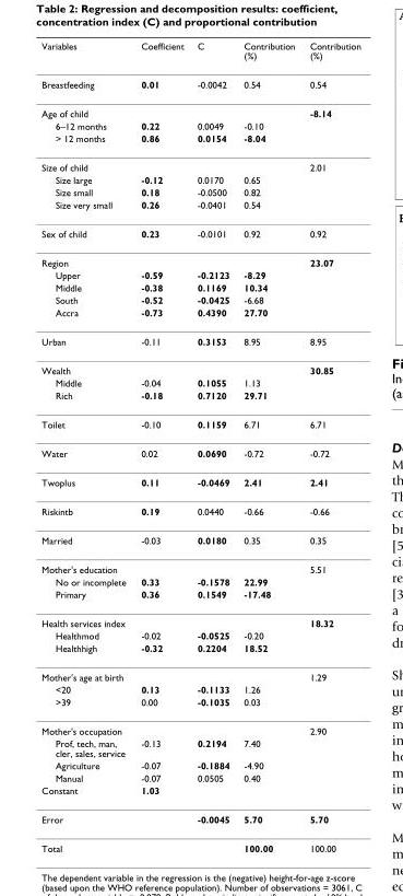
<table><thead><tr><td>Variables</td><td>Coefficient</td><td>C</td><td>Contribution (%)</td><td>Contribution (%)</td></tr></thead><tbody><tr><td>Breastfeeding</td><td>0.01</td><td>-0.0042</td><td>0.54</td><td>0.54</td></tr><tr><td>Age of child</td><td></td><td></td><td></td><td>-8.14</td></tr><tr><td>6–12 months</td><td>0.22</td><td>0.0049</td><td>-0.10</td><td></td></tr><tr><td>&gt; 12 months</td><td>0.86</td><td>0.0154</td><td>-8.04</td><td></td></tr><tr><td>Size of child</td><td></td><td></td><td></td><td>2.01</td></tr><tr><td>Size large</td><td>-0.12</td><td>0.0170</td><td>0.65</td><td></td></tr><tr><td>Size small</td><td>0.18</td><td>-0.0500</td><td>0.82</td><td></td></tr><tr><td>Size very small</td><td>0.26</td><td>-0.0401</td><td>0.54</td><td></td></tr><tr><td>Sex of child</td><td>0.23</td><td>-0.0101</td><td>0.92</td><td>0.92</td></tr><tr><td>Region</td><td></td><td></td><td></td><td>23.07</td></tr><tr><td>Upper</td><td>-0.59</td><td>-0.2123</td><td>-8.29</td><td></td></tr><tr><td>Middle</td><td>-0.38</td><td>0.1169</td><td>10.34</td><td></td></tr><tr><td>South</td><td>-0.52</td><td>-0.0425</td><td>-6.68</td><td></td></tr><tr><td>Accra</td><td>-0.73</td><td>0.4390</td><td>27.70</td><td></td></tr><tr><td>Urban</td><td>-0.11</td><td>0.3153</td><td>8.95</td><td>8.95</td></tr><tr><td>Wealth</td><td></td><td></td><td></td><td>30.85</td></tr><tr><td>Middle</td><td>-0.04</td><td>0.1055</td><td>1.13</td><td></td></tr><tr><td>Rich</td><td>-0.18</td><td>0.7120</td><td>29.71</td><td></td></tr><tr><td>Toilet</td><td>-0.10</td><td>0.1159</td><td>6.71</td><td>6.71</td></tr><tr><td>Water</td><td>0.02</td><td>0.0690</td><td>-0.72</td><td>-0.72</td></tr><tr><td>Twoplus</td><td>0.11</td><td>-0.0469</td><td>2.41</td><td>2.41</td></tr><tr><td>Riskintb</td><td>0.19</td><td>0.0440</td><td>-0.66</td><td>-0.66</td></tr><tr><td>Married</td><td>-0.03</td><td>0.0180</td><td>0.35</td><td>0.35</td></tr><tr><td>Mother&#x27;s education</td><td></td><td></td><td></td><td>5.51</td></tr><tr><td>No or incomplete</td><td>0.33</td><td>-0.1578</td><td>22.99</td><td></td></tr><tr><td>Primary</td><td>0.36</td><td>0.1549</td><td>-17.48</td><td></td></tr><tr><td>Health services index</td><td></td><td></td><td></td><td>18.32</td></tr><tr><td>Healthmod</td><td>-0.02</td><td>-0.0525</td><td>-0.20</td><td></td></tr><tr><td>Healthhigh</td><td>-0.32</td><td>0.2204</td><td>18.52</td><td></td></tr><tr><td>Mother&#x27;s age at birth</td><td></td><td></td><td></td><td>1.29</td></tr><tr><td>&lt;20</td><td>0.13</td><td>-0.1133</td><td>1.26</td><td></td></tr><tr><td>&gt;39</td><td>0.00</td><td>-0.1035</td><td>0.03</td><td></td></tr><tr><td>Mother&#x27;s occupation</td><td></td><td></td><td></td><td>2.90</td></tr><tr><td>Prof, tech, man, cler, sales, service</td><td>-0.13</td><td>0.2194</td><td>7.40</td><td></td></tr><tr><td>Agriculture</td><td>-0.07</td><td>-0.1884</td><td>-4.90</td><td></td></tr><tr><td>Manual</td><td>-0.07</td><td>0.0505</td><td>0.40</td><td></td></tr><tr><td>Constant</td><td>1.03</td><td></td><td></td><td></td></tr><tr><td>Error</td><td></td><td>-0.0045</td><td>5.70</td><td>5.70</td></tr><tr><td>Total</td><td></td><td></td><td>100.00</td><td>100.00</td></tr></tbody></table>